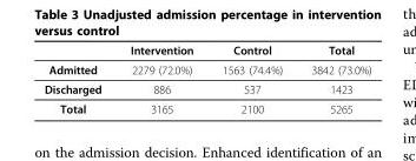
<table><thead><tr><td></td><td>Intervention</td><td>Control</td><td>Total</td></tr></thead><tbody><tr><td>Admitted</td><td>2279 (72.0%)</td><td>1563 (74.4%)</td><td>3842 (73.0%)</td></tr><tr><td>Discharged</td><td>886</td><td>537</td><td>1423</td></tr><tr><td>Total</td><td>3165</td><td>2100</td><td>5265</td></tr></tbody></table>